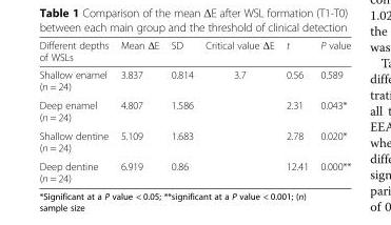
<table><thead><tr><td>Different depths of WSLs</td><td>Mean ΔE</td><td>SD</td><td>Critical value ΔE</td><td>t</td><td>P value</td></tr></thead><tbody><tr><td>Shallow enamel (n = 24)</td><td>3.837</td><td>0.814</td><td rowspan="4">3.7</td><td>0.56</td><td>0.589</td></tr><tr><td>Deep enamel (n = 24)</td><td>4.807</td><td>1.586</td><td>2.31</td><td>0.043*</td></tr><tr><td>Shallow dentine (n = 24)</td><td>5.109</td><td>1.683</td><td>2.78</td><td>0.020*</td></tr><tr><td>Deep dentine (n = 24)</td><td>6.919</td><td>0.86</td><td>12.41</td><td>0.000**</td></tr></tbody></table>